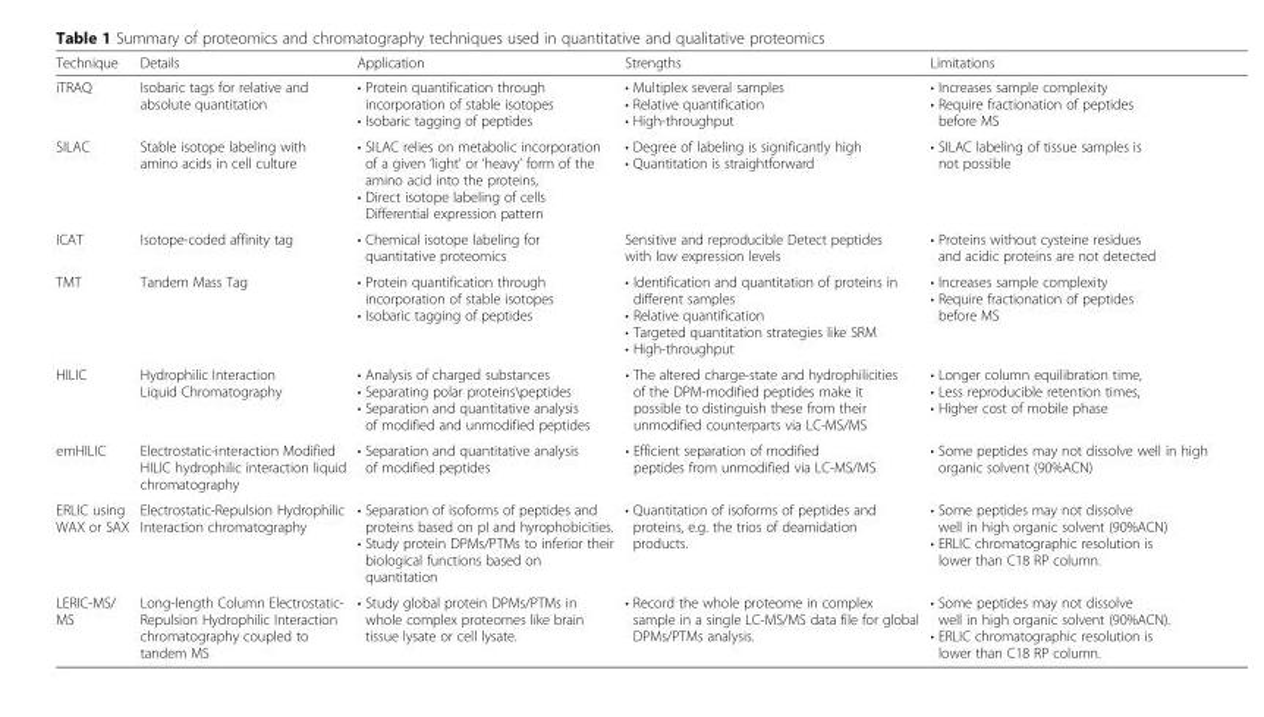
<table><thead><tr><td>Technique</td><td>Details</td><td>Application</td><td>Strengths</td><td>Limitations</td></tr></thead><tbody><tr><td>iTRAQ</td><td>Isobaric tags for relative and absolute quantitation</td><td>• Protein quantification through incorporation of stable isotopes • Isobaric tagging of peptides</td><td>• Multiplex several samples • Relative quantification • High-throughput</td><td>• Increases sample complexity • Require fractionation of peptides before MS</td></tr><tr><td>SILAC</td><td>Stable isotope labeling with amino acids in cell culture</td><td>• SILAC relies on metabolic incorporation of a given ‘light’ or ‘heavy’ form of the amino acid into the proteins, • Direct isotope labeling of cells Differential expression pattern</td><td>• Degree of labeling is significantly high • Quantitation is straightforward</td><td>• SILAC labeling of tissue samples is not possible</td></tr><tr><td>ICAT</td><td>Isotope-coded affinity tag</td><td>• Chemical isotope labeling for quantitative proteomics</td><td>Sensitive and reproducible Detect peptides with low expression levels</td><td>• Proteins without cysteine residues and acidic proteins are not detected</td></tr><tr><td>TMT</td><td>Tandem Mass Tag</td><td>• Protein quantification through incorporation of stable isotopes • Isobaric tagging of peptides</td><td>• Identification and quantitation of proteins in different samples • Relative quantification • Targeted quantitation strategies like SRM • High-throughput</td><td>• Increases sample complexity • Require fractionation of peptides before MS</td></tr><tr><td>HILIC</td><td>Hydrophilic Interaction Liquid Chromatography</td><td>• Analysis of charged substances • Separating polar proteins\peptides • Separation and quantitative analysis of modified and unmodified peptides</td><td>• The altered charge-state and hydrophilicities of the DPM-modified peptides make it possible to distinguish these from their unmodified counterparts via LC-MS/MS</td><td>• Longer column equilibration time, • Less reproducible retention times, • Higher cost of mobile phase</td></tr><tr><td>emHILIC</td><td>Electrostatic-interaction Modified HILIC hydrophilic interaction liquid chromatography</td><td>• Separation and quantitative analysis of modified peptides</td><td>• Efficient separation of modified peptides from unmodified via LC-MS/MS</td><td>• Some peptides may not dissolve well in high organic solvent (90%ACN)</td></tr><tr><td>ERLIC using WAX or SAX</td><td>Electrostatic-Repulsion Hydrophilic Interaction chromatography</td><td>• Separation of isoforms of peptides and proteins based on pI and hyrophobicities. • Study protein DPMs/PTMs to inferior their biological functions based on quantitation</td><td>• Quantitation of isoforms of peptides and proteins, e.g. the trios of deamidation products.</td><td>• Some peptides may not dissolve well in high organic solvent (90%ACN) • ERLIC chromatographic resolution is lower than C18 RP column.</td></tr><tr><td>LERIC-MS/ MS</td><td>Long-length Column Electrostatic- Repulsion Hydrophilic Interaction chromatography coupled to tandem MS</td><td>• Study global protein DPMs/PTMs in whole complex proteomes like brain tissue lysate or cell lysate.</td><td>• Record the whole proteome in complex sample in a single LC-MS/MS data file for global DPMs/PTMs analysis.</td><td>• Some peptides may not dissolve well in high organic solvent (90%ACN). • ERLIC chromatographic resolution is lower than C18 RP column.</td></tr></tbody></table>